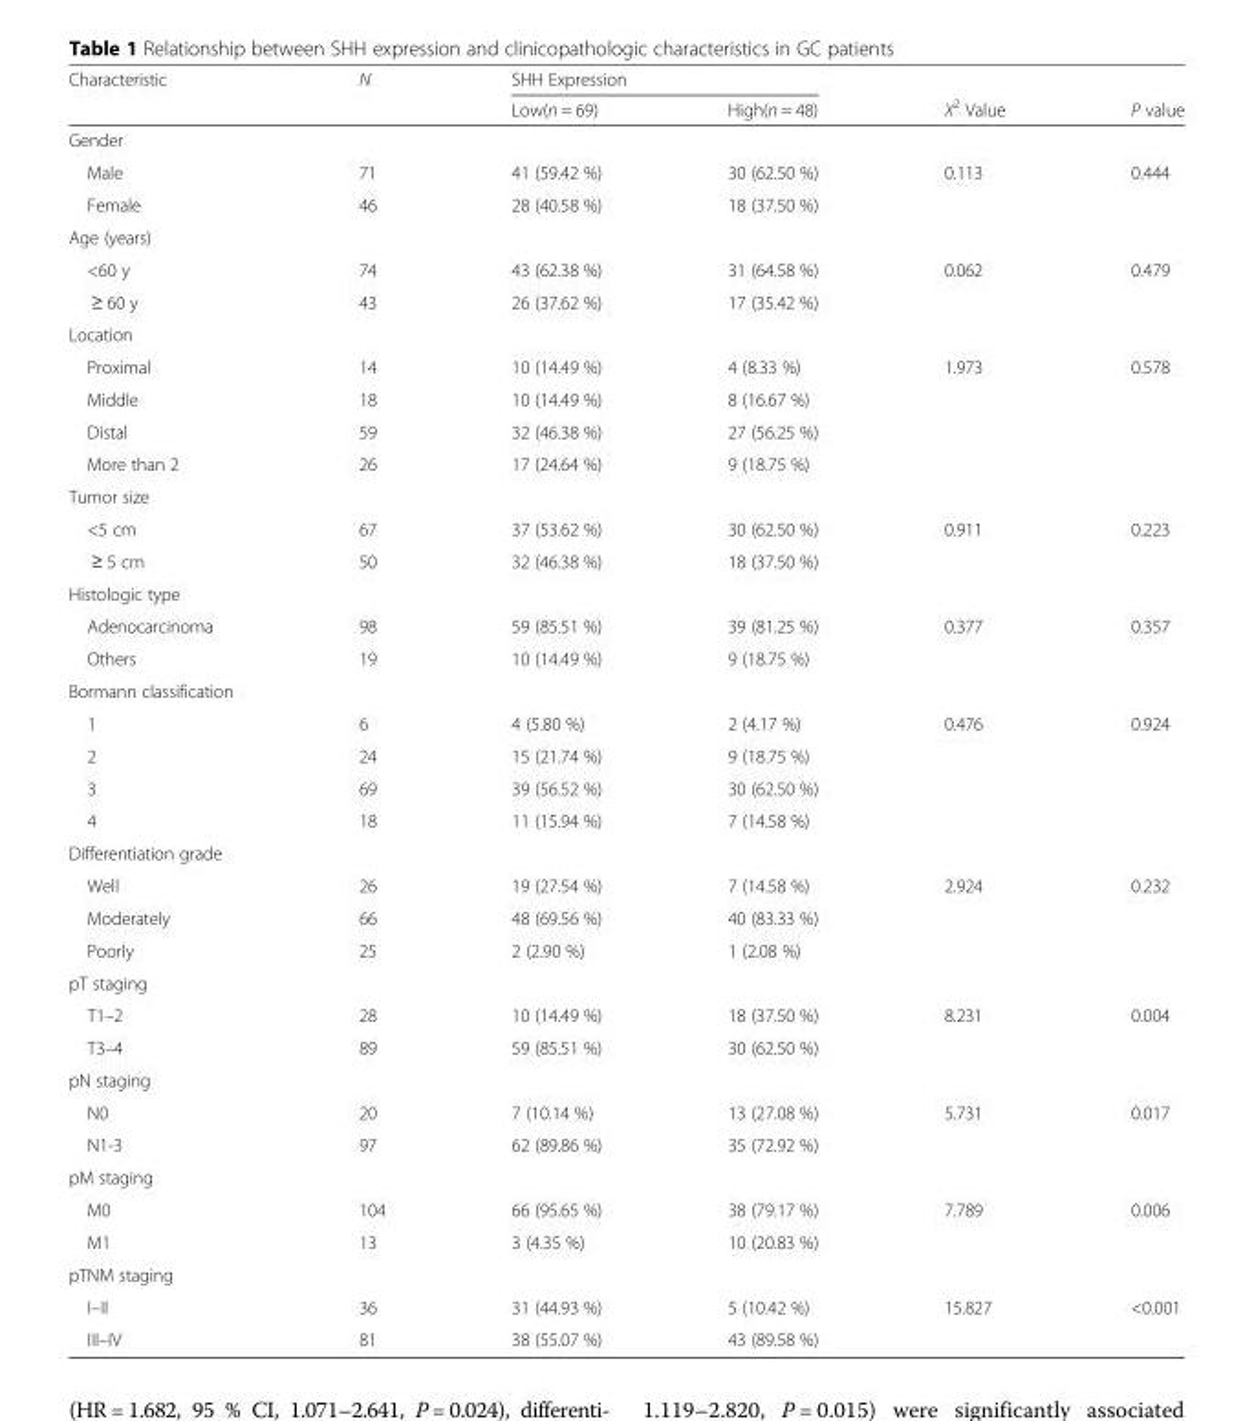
<table><thead><tr><td rowspan="2">Characteristic</td><td rowspan="2">N</td><td colspan="2">SHH Expression</td><td rowspan="2">Χ<sup>2</sup> Value</td><td rowspan="2">P value</td></tr><tr><td>Low(n = 69)</td><td>High(n = 48)</td></tr></thead><tbody><tr><td colspan="6">Gender</td></tr><tr><td>Male</td><td>71</td><td>41 (59.42 %)</td><td>30 (62.50 %)</td><td>0.113</td><td>0.444</td></tr><tr><td>Female</td><td>46</td><td>28 (40.58 %)</td><td>18 (37.50 %)</td><td></td><td></td></tr><tr><td colspan="6">Age (years)</td></tr><tr><td>&lt;60 y</td><td>74</td><td>43 (62.38 %)</td><td>31 (64.58 %)</td><td>0.062</td><td>0.479</td></tr><tr><td>≥ 60 y</td><td>43</td><td>26 (37.62 %)</td><td>17 (35.42 %)</td><td></td><td></td></tr><tr><td colspan="6">Location</td></tr><tr><td>Proximal</td><td>14</td><td>10 (14.49 %)</td><td>4 (8.33 %)</td><td>1.973</td><td>0.578</td></tr><tr><td>Middle</td><td>18</td><td>10 (14.49 %)</td><td>8 (16.67 %)</td><td></td><td></td></tr><tr><td>Distal</td><td>59</td><td>32 (46.38 %)</td><td>27 (56.25 %)</td><td></td><td></td></tr><tr><td>More than 2</td><td>26</td><td>17 (24.64 %)</td><td>9 (18.75 %)</td><td></td><td></td></tr><tr><td colspan="6">Tumor size</td></tr><tr><td>&lt;5 cm</td><td>67</td><td>37 (53.62 %)</td><td>30 (62.50 %)</td><td>0.911</td><td>0.223</td></tr><tr><td>≥ 5 cm</td><td>50</td><td>32 (46.38 %)</td><td>18 (37.50 %)</td><td></td><td></td></tr><tr><td colspan="6">Histologic type</td></tr><tr><td>Adenocarcinoma</td><td>98</td><td>59 (85.51 %)</td><td>39 (81.25 %)</td><td>0.377</td><td>0.357</td></tr><tr><td>Others</td><td>19</td><td>10 (14.49 %)</td><td>9 (18.75 %)</td><td></td><td></td></tr><tr><td colspan="6">Bormann classification</td></tr><tr><td>1</td><td>6</td><td>4 (5.80 %)</td><td>2 (4.17 %)</td><td>0.476</td><td>0.924</td></tr><tr><td>2</td><td>24</td><td>15 (21.74 %)</td><td>9 (18.75 %)</td><td></td><td></td></tr><tr><td>3</td><td>69</td><td>39 (56.52 %)</td><td>30 (62.50 %)</td><td></td><td></td></tr><tr><td>4</td><td>18</td><td>11 (15.94 %)</td><td>7 (14.58 %)</td><td></td><td></td></tr><tr><td colspan="6">Differentiation grade</td></tr><tr><td>Well</td><td>26</td><td>19 (27.54 %)</td><td>7 (14.58 %)</td><td>2.924</td><td>0.232</td></tr><tr><td>Moderately</td><td>66</td><td>48 (69.56 %)</td><td>40 (83.33 %)</td><td></td><td></td></tr><tr><td>Poorly</td><td>25</td><td>2 (2.90 %)</td><td>1 (2.08 %)</td><td></td><td></td></tr><tr><td colspan="6">pT staging</td></tr><tr><td>T1–2</td><td>28</td><td>10 (14.49 %)</td><td>18 (37.50 %)</td><td>8.231</td><td>0.004</td></tr><tr><td>T3–4</td><td>89</td><td>59 (85.51 %)</td><td>30 (62.50 %)</td><td></td><td></td></tr><tr><td colspan="6">pN staging</td></tr><tr><td>N0</td><td>20</td><td>7 (10.14 %)</td><td>13 (27.08 %)</td><td>5.731</td><td>0.017</td></tr><tr><td>N1-3</td><td>97</td><td>62 (89.86 %)</td><td>35 (72.92 %)</td><td></td><td></td></tr><tr><td colspan="6">pM staging</td></tr><tr><td>M0</td><td>104</td><td>66 (95.65 %)</td><td>38 (79.17 %)</td><td>7.789</td><td>0.006</td></tr><tr><td>M1</td><td>13</td><td>3 (4.35 %)</td><td>10 (20.83 %)</td><td></td><td></td></tr><tr><td colspan="6">pTNM staging</td></tr><tr><td>I–II</td><td>36</td><td>31 (44.93 %)</td><td>5 (10.42 %)</td><td>15.827</td><td>&lt;0.001</td></tr><tr><td>III–IV</td><td>81</td><td>38 (55.07 %)</td><td>43 (89.58 %)</td><td></td><td></td></tr></tbody></table>